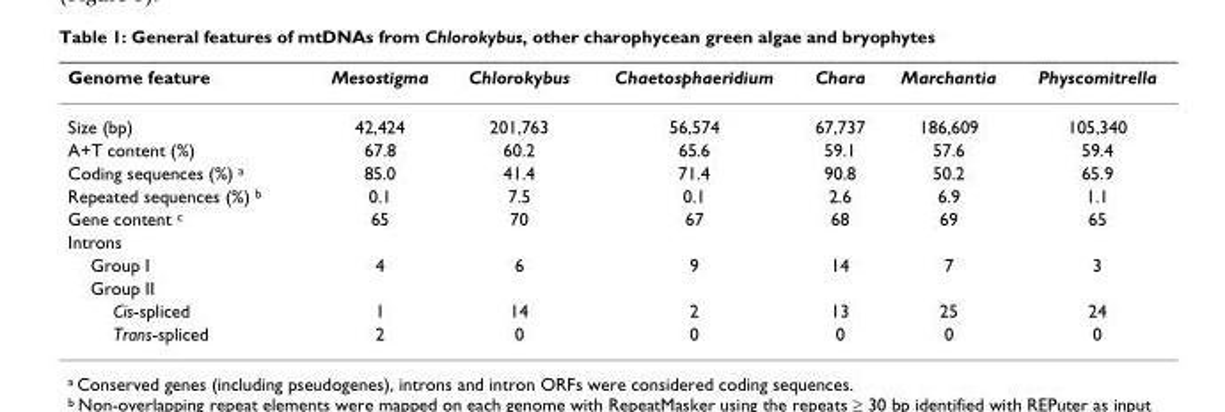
<table><thead><tr><td>Genome feature</td><td>Mesostigma</td><td>Chlorokybus</td><td>Chaetosphaeridium</td><td>Chara</td><td>Marchantia</td><td>Physcomitrella</td></tr></thead><tbody><tr><td>Size (bp)</td><td>42,424</td><td>201,763</td><td>56,574</td><td>67,737</td><td>186,609</td><td>105,340</td></tr><tr><td>A+T content (%)</td><td>67.8</td><td>60.2</td><td>65.6</td><td>59.1</td><td>57.6</td><td>59.4</td></tr><tr><td>Coding sequences (%) a</td><td>85.0</td><td>41.4</td><td>71.4</td><td>90.8</td><td>50.2</td><td>65.9</td></tr><tr><td>Repeated sequences (%) b</td><td>0.1</td><td>7.5</td><td>0.1</td><td>2.6</td><td>6.9</td><td>1.1</td></tr><tr><td>Gene content c</td><td>65</td><td>70</td><td>67</td><td>68</td><td>69</td><td>65</td></tr><tr><td colspan="7">Introns</td></tr><tr><td>Group I</td><td>4</td><td>6</td><td>9</td><td>14</td><td>7</td><td>3</td></tr><tr><td colspan="7">Group II</td></tr><tr><td>Cis-spliced</td><td>1</td><td>14</td><td>2</td><td>13</td><td>25</td><td>24</td></tr><tr><td>Trans-spliced</td><td>2</td><td>0</td><td>0</td><td>0</td><td>0</td><td>0</td></tr></tbody></table>